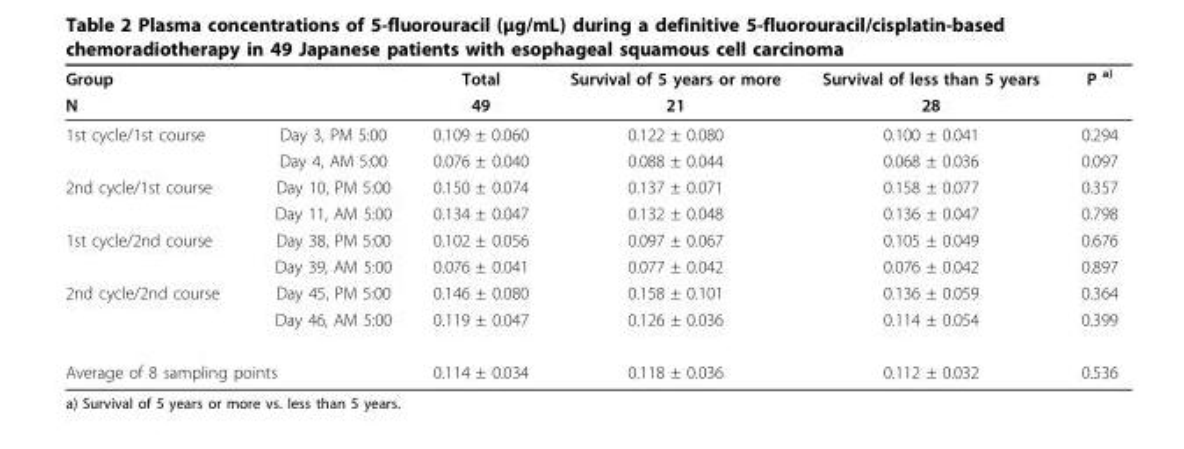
<table><thead><tr><td rowspan="2" colspan="2">Group N</td><td rowspan="3">Total 49 0.109 ± 0.060</td><td rowspan="3">Survival of 5 years or more 21 0.122 ± 0.080</td><td rowspan="3">Survival of less than 5 years 28 0.100 ± 0.041</td><td rowspan="3">P <sup>a)</sup> 0.294</td></tr><tr></tr><tr><td>1st cycle/1st course</td><td>Day 3, PM 5:00</td></tr></thead><tbody><tr><td></td><td>Day 4, AM 5:00</td><td>0.076 ± 0.040</td><td>0.088 ± 0.044</td><td>0.068 ± 0.036</td><td>0.097</td></tr><tr><td rowspan="2">2nd cycle/1st course</td><td>Day 10, PM 5:00</td><td>0.150 ± 0.074</td><td>0.137 ± 0.071</td><td>0.158 ± 0.077</td><td>0.357</td></tr><tr><td>Day 11, AM 5:00</td><td>0.134 ± 0.047</td><td>0.132 ± 0.048</td><td>0.136 ± 0.047</td><td>0.798</td></tr><tr><td rowspan="2">1st cycle/2nd course</td><td>Day 38, PM 5:00</td><td>0.102 ± 0.056</td><td>0.097 ± 0.067</td><td>0.105 ± 0.049</td><td>0.676</td></tr><tr><td>Day 39, AM 5:00</td><td>0.076 ± 0.041</td><td>0.077 ± 0.042</td><td>0.076 ± 0.042</td><td>0.897</td></tr><tr><td rowspan="2">2nd cycle/2nd course</td><td>Day 45, PM 5:00</td><td>0.146 ± 0.080</td><td>0.158 ± 0.101</td><td>0.136 ± 0.059</td><td>0.364</td></tr><tr><td>Day 46, AM 5:00</td><td>0.119 ± 0.047</td><td>0.126 ± 0.036</td><td>0.114 ± 0.054</td><td>0.399</td></tr><tr><td colspan="2">Average of 8 sampling points</td><td>0.114 ± 0.034</td><td>0.118 ± 0.036</td><td>0.112 ± 0.032</td><td>0.536</td></tr></tbody></table>